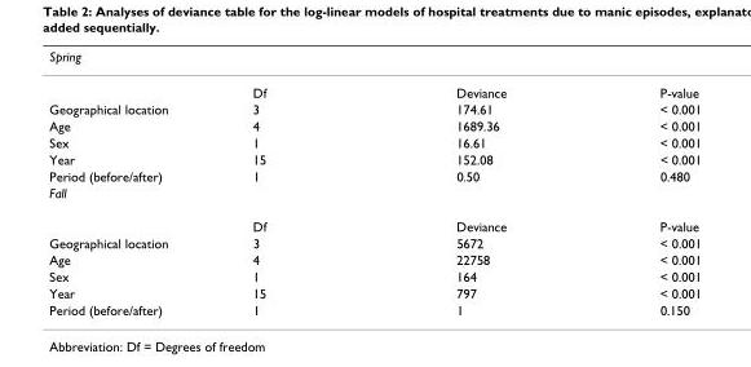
<table><thead><tr><td>Spring</td><td></td><td></td><td></td></tr></thead><tbody><tr><td></td><td>Df</td><td>Deviance</td><td>P-value</td></tr><tr><td>Geographical location</td><td>3</td><td>174.61</td><td>&lt; 0.001</td></tr><tr><td>Age</td><td>4</td><td>1689.36</td><td>&lt; 0.001</td></tr><tr><td>Sex</td><td>1</td><td>16.61</td><td>&lt; 0.001</td></tr><tr><td>Year</td><td>15</td><td>152.08</td><td>&lt; 0.001</td></tr><tr><td>Period (before/after)</td><td>1</td><td>0.50</td><td>0.480</td></tr><tr><td colspan="4">Fall</td></tr><tr><td></td><td>Df</td><td>Deviance</td><td>P-value</td></tr><tr><td>Geographical location</td><td>3</td><td>5672</td><td>&lt; 0.001</td></tr><tr><td>Age</td><td>4</td><td>22758</td><td>&lt; 0.001</td></tr><tr><td>Sex</td><td>1</td><td>164</td><td>&lt; 0.001</td></tr><tr><td>Year</td><td>15</td><td>797</td><td>&lt; 0.001</td></tr><tr><td>Period (before/after)</td><td>1</td><td>1</td><td>0.150</td></tr></tbody></table>